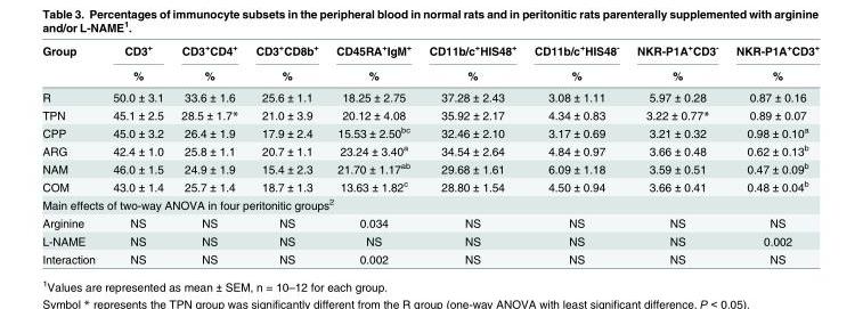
<table><thead><tr><td rowspan="2">Group</td><td rowspan="2">CD3<sup>+</sup> %</td><td rowspan="2">CD3<sup>+</sup>CD4<sup>+</sup> %</td><td rowspan="2">CD3<sup>+</sup>CD8b<sup>+</sup> %</td><td rowspan="2">CD45RA<sup>+</sup>IgM<sup>+</sup> %</td><td rowspan="2">CD11b/c<sup>+</sup>HIS48<sup>+</sup> %</td><td rowspan="2">CD11b/c<sup>+</sup>HIS48<sup>-</sup> %</td><td rowspan="2">NKR-P1A<sup>+</sup>CD3<sup>-</sup> %</td><td rowspan="2">NKR-P1A<sup>+</sup>CD3<sup>+</sup> %</td></tr><tr></tr></thead><tbody><tr><td>R</td><td>50.0 ± 3.1</td><td>33.6 ± 1.6</td><td>25.6 ± 1.1</td><td>18.25 ± 2.75</td><td>37.28 ± 2.43</td><td>3.08 ± 1.11</td><td>5.97 ± 0.28</td><td>0.87 ± 0.16</td></tr><tr><td>TPN</td><td>45.1 ± 2.5</td><td>28.5 ± 1.7*</td><td>21.0 ± 3.9</td><td>20.12 ± 4.08</td><td>35.92 ± 2.17</td><td>4.34 ± 0.83</td><td>3.22 ± 0.77*</td><td>0.89 ± 0.07</td></tr><tr><td>CPP</td><td>45.0 ± 3.2</td><td>26.4 ± 1.9</td><td>17.9 ± 2.4</td><td>15.53 ± 2.50<sup>bc</sup></td><td>32.46 ± 2.10</td><td>3.17 ± 0.69</td><td>3.21 ± 0.32</td><td>0.98 ± 0.10<sup>a</sup></td></tr><tr><td>ARG</td><td>42.4 ± 1.0</td><td>25.8 ± 1.1</td><td>20.7 ± 1.1</td><td>23.24 ± 3.40<sup>a</sup></td><td>34.54 ± 2.64</td><td>4.84 ± 0.97</td><td>3.66 ± 0.48</td><td>0.62 ± 0.13<sup>b</sup></td></tr><tr><td>NAM</td><td>46.0 ± 1.5</td><td>24.9 ± 1.9</td><td>15.4 ± 2.3</td><td>21.70 ± 1.17<sup>ab</sup></td><td>29.68 ± 1.61</td><td>6.09 ± 1.18</td><td>3.59 ± 0.51</td><td>0.47 ± 0.09<sup>b</sup></td></tr><tr><td>COM</td><td>43.0 ± 1.4</td><td>25.7 ± 1.4</td><td>18.7 ± 1.3</td><td>13.63 ± 1.82<sup>c</sup></td><td>28.80 ± 1.54</td><td>4.50 ± 0.94</td><td>3.66 ± 0.41</td><td>0.48 ± 0.04<sup>b</sup></td></tr><tr><td colspan="9">Main effects of two-way ANOVA in four peritonitic groups<sup>2</sup></td></tr><tr><td>Arginine</td><td>NS</td><td>NS</td><td>NS</td><td>0.034</td><td>NS</td><td>NS</td><td>NS</td><td>NS</td></tr><tr><td>L-NAME</td><td>NS</td><td>NS</td><td>NS</td><td>NS</td><td>NS</td><td>NS</td><td>NS</td><td>0.002</td></tr><tr><td>Interaction</td><td>NS</td><td>NS</td><td>NS</td><td>0.002</td><td>NS</td><td>NS</td><td>NS</td><td>NS</td></tr></tbody></table>